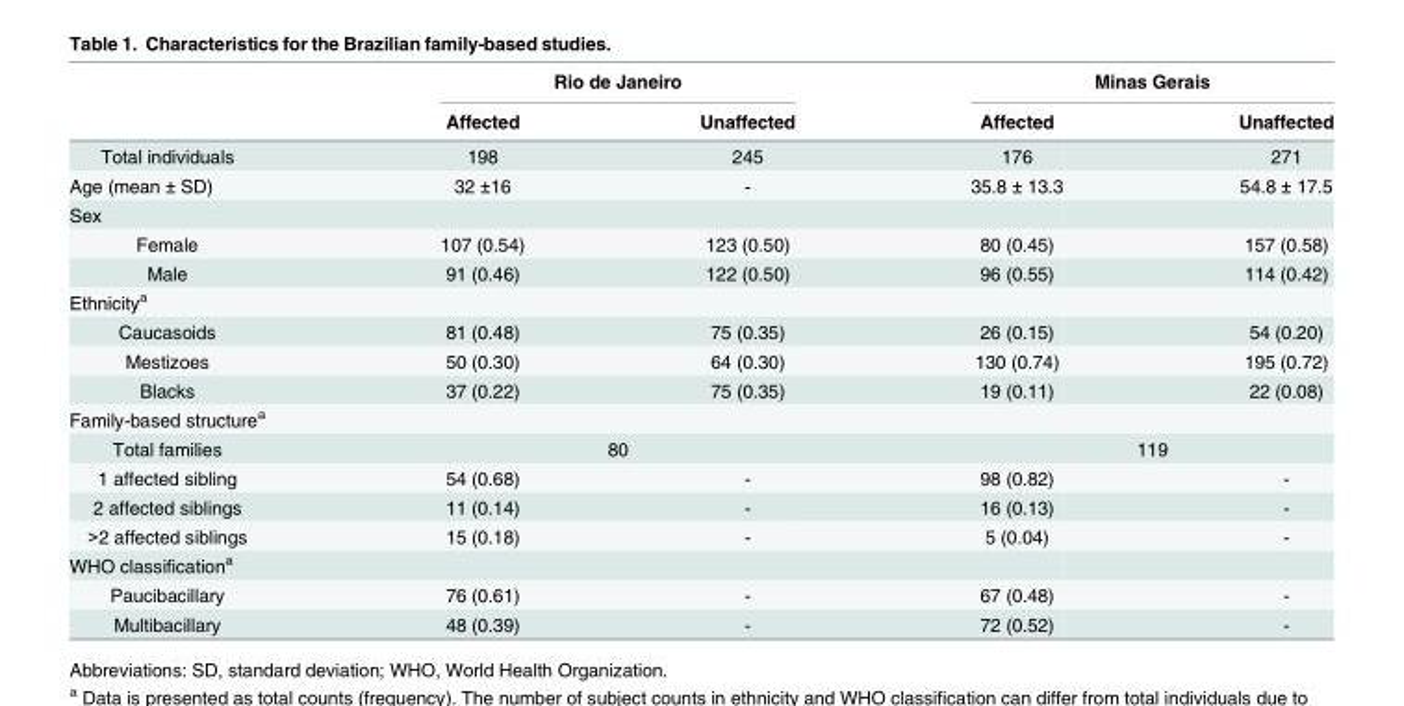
<table><thead><tr><td rowspan="2"></td><td colspan="2">Rio de Janeiro</td><td colspan="2">Minas Gerais</td></tr><tr><td>Affected</td><td>Unaffected</td><td>Affected</td><td>Unaffected</td></tr></thead><tbody><tr><td>Total individuals</td><td>198</td><td>245</td><td>176</td><td>271</td></tr><tr><td>Age (mean ± SD)</td><td>32 ±16</td><td>-</td><td>35.8 ± 13.3</td><td>54.8 ± 17.5</td></tr><tr><td colspan="5">Sex</td></tr><tr><td>Female</td><td>107 (0.54)</td><td>123 (0.50)</td><td>80 (0.45)</td><td>157 (0.58)</td></tr><tr><td>Male</td><td>91 (0.46)</td><td>122 (0.50)</td><td>96 (0.55)</td><td>114 (0.42)</td></tr><tr><td colspan="5">Ethnicity<sup>a</sup></td></tr><tr><td>Caucasoids</td><td>81 (0.48)</td><td>75 (0.35)</td><td>26 (0.15)</td><td>54 (0.20)</td></tr><tr><td>Mestizoes</td><td>50 (0.30)</td><td>64 (0.30)</td><td>130 (0.74)</td><td>195 (0.72)</td></tr><tr><td>Blacks</td><td>37 (0.22)</td><td>75 (0.35)</td><td>19 (0.11)</td><td>22 (0.08)</td></tr><tr><td colspan="5">Family-based structure<sup>a</sup></td></tr><tr><td>Total families</td><td colspan="2">80</td><td colspan="2">119</td></tr><tr><td>1 affected sibling</td><td>54 (0.68)</td><td>-</td><td>98 (0.82)</td><td>-</td></tr><tr><td>2 affected siblings</td><td>11 (0.14)</td><td>-</td><td>16 (0.13)</td><td>-</td></tr><tr><td>&gt;2 affected siblings</td><td>15 (0.18)</td><td>-</td><td>5 (0.04)</td><td>-</td></tr><tr><td colspan="5">WHO classification<sup>a</sup></td></tr><tr><td>Paucibacillary</td><td>76 (0.61)</td><td>-</td><td>67 (0.48)</td><td>-</td></tr><tr><td>Multibacillary</td><td>48 (0.39)</td><td>-</td><td>72 (0.52)</td><td>-</td></tr></tbody></table>